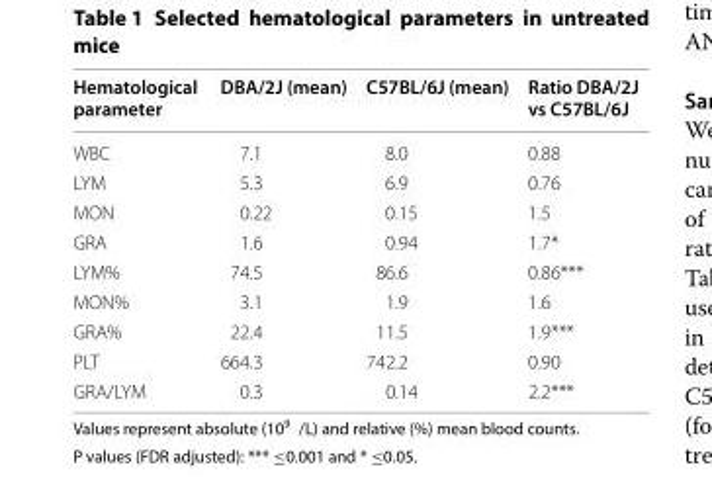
<table><thead><tr><td>Hematological parameter</td><td>DBA/2J (mean)</td><td>C57BL/6J (mean)</td><td>Ratio DBA/2J vs C57BL/6J</td></tr></thead><tbody><tr><td>WBC</td><td>7.1</td><td>8.0</td><td>0.88</td></tr><tr><td>LYM</td><td>5.3</td><td>6.9</td><td>0.76</td></tr><tr><td>MON</td><td>0.22</td><td>0.15</td><td>1.5</td></tr><tr><td>GRA</td><td>1.6</td><td>0.94</td><td>1.7*</td></tr><tr><td>LYM%</td><td>74.5</td><td>86.6</td><td>0.86***</td></tr><tr><td>MON%</td><td>3.1</td><td>1.9</td><td>1.6</td></tr><tr><td>GRA%</td><td>22.4</td><td>11.5</td><td>1.9***</td></tr><tr><td>PLT</td><td>664.3</td><td>742.2</td><td>0.90</td></tr><tr><td>GRA/LYM</td><td>0.3</td><td>0.14</td><td>2.2***</td></tr></tbody></table>